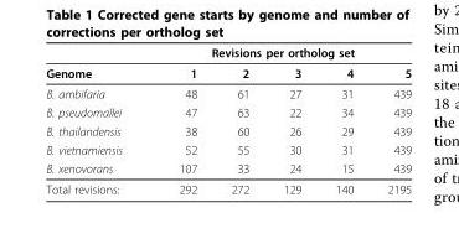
<table><thead><tr><td rowspan="2">Genome</td><td colspan="5">Revisions per ortholog set</td></tr><tr><td>1</td><td>2</td><td>3</td><td>4</td><td>5</td></tr></thead><tbody><tr><td>B. ambifaria</td><td>48</td><td>61</td><td>27</td><td>31</td><td>439</td></tr><tr><td>B. pseudomallei</td><td>47</td><td>63</td><td>22</td><td>34</td><td>439</td></tr><tr><td>B. thailandensis</td><td>38</td><td>60</td><td>26</td><td>29</td><td>439</td></tr><tr><td>B. vietnamiensis</td><td>52</td><td>55</td><td>30</td><td>31</td><td>439</td></tr><tr><td>B. xenovorans</td><td>107</td><td>33</td><td>24</td><td>15</td><td>439</td></tr><tr><td>Total revisions:</td><td>292</td><td>272</td><td>129</td><td>140</td><td>2195</td></tr></tbody></table>